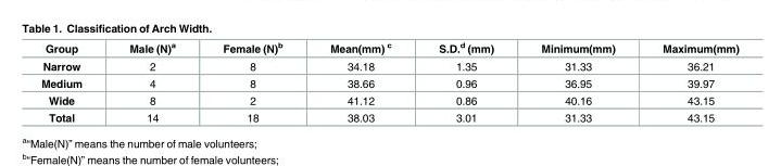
<table><thead><tr><td>Group</td><td>Male (N)<sup>a</sup></td><td>Female (N)<sup>b</sup></td><td>Mean(mm) <sup>c</sup></td><td>S.D.<sup>d</sup> (mm)</td><td>Minimum(mm)</td><td>Maximum(mm)</td></tr></thead><tbody><tr><td>Narrow</td><td>2</td><td>8</td><td>34.18</td><td>1.35</td><td>31.33</td><td>36.21</td></tr><tr><td>Medium</td><td>4</td><td>8</td><td>38.66</td><td>0.96</td><td>36.95</td><td>39.97</td></tr><tr><td>Wide</td><td>8</td><td>2</td><td>41.12</td><td>0.86</td><td>40.16</td><td>43.15</td></tr><tr><td>Total</td><td>14</td><td>18</td><td>38.03</td><td>3.01</td><td>31.33</td><td>43.15</td></tr></tbody></table>